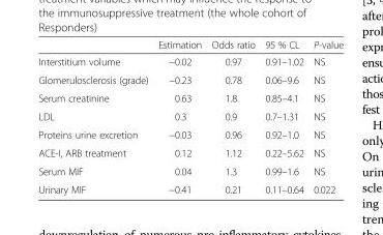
<table><thead><tr><td></td><td>Estimation</td><td>Odds ratio</td><td>95 % CL</td><td>P-value</td></tr></thead><tbody><tr><td>Interstitium volume</td><td>−0.02</td><td>0.97</td><td>0.91–1.02</td><td>NS</td></tr><tr><td>Glomerulosclerosis (grade)</td><td>−0.23</td><td>0.78</td><td>0.06–9.6</td><td>NS</td></tr><tr><td>Serum creatinine</td><td>0.63</td><td>1.8</td><td>0.85–4.1</td><td>NS</td></tr><tr><td>LDL</td><td>0.3</td><td>0.9</td><td>0.7–1.31</td><td>NS</td></tr><tr><td>Proteins urine excretion</td><td>−0.03</td><td>0.96</td><td>0.92–1.0</td><td>NS</td></tr><tr><td>ACE-I, ARB treatment</td><td>0.12</td><td>1.12</td><td>0.22–5.62</td><td>NS</td></tr><tr><td>Serum MIF</td><td>0.04</td><td>1.3</td><td>0.99–1.6</td><td>NS</td></tr><tr><td>Urinary MIF</td><td>−0.41</td><td>0.21</td><td>0.11–0.64</td><td>0.022</td></tr></tbody></table>